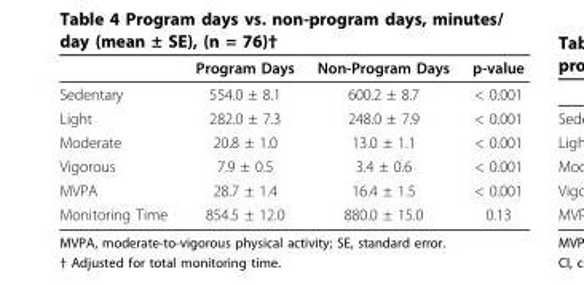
<table><thead><tr><td></td><td>Program Days</td><td>Non-Program Days</td><td>p-value</td></tr></thead><tbody><tr><td>Sedentary</td><td>554.0 ± 8.1</td><td>600.2 ± 8.7</td><td>&lt; 0.001</td></tr><tr><td>Light</td><td>282.0 ± 7.3</td><td>248.0 ± 7.9</td><td>&lt; 0.001</td></tr><tr><td>Moderate</td><td>20.8 ± 1.0</td><td>13.0 ± 1.1</td><td>&lt; 0.001</td></tr><tr><td>Vigorous</td><td>7.9 ± 0.5</td><td>3.4 ± 0.6</td><td>&lt; 0.001</td></tr><tr><td>MVPA</td><td>28.7 ± 1.4</td><td>16.4 ± 1.5</td><td>&lt; 0.001</td></tr><tr><td>Monitoring Time</td><td>854.5 ± 12.0</td><td>880.0 ± 15.0</td><td>0.13</td></tr></tbody></table>